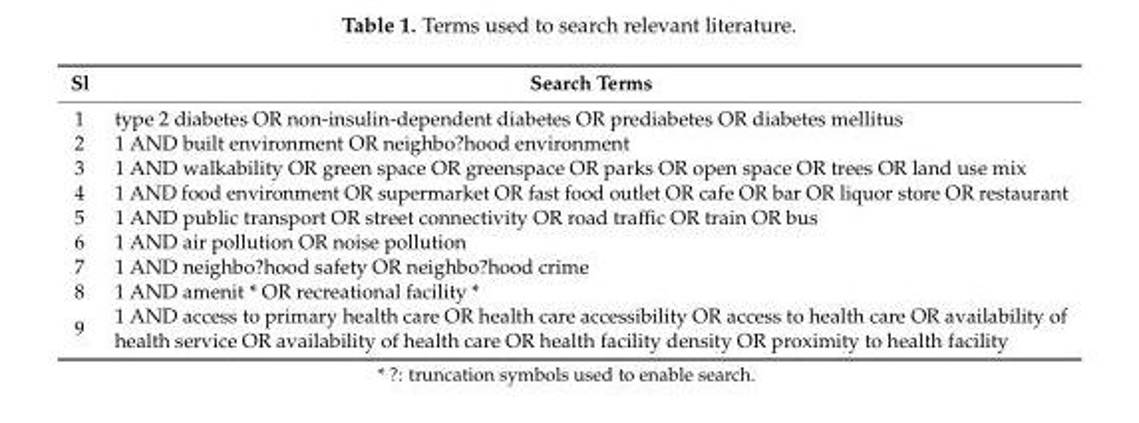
<table><thead><tr><td>Sl</td><td>Search Terms</td></tr></thead><tbody><tr><td>1</td><td>type 2 diabetes OR non-insulin-dependent diabetes OR prediabetes OR diabetes mellitus</td></tr><tr><td>2</td><td>1 AND built environment OR neighbo?hood environment</td></tr><tr><td>3</td><td>1 AND walkability OR green space OR greenspace OR parks OR open space OR trees OR land use mix</td></tr><tr><td>4</td><td>1 AND food environment OR supermarket OR fast food outlet OR cafe OR bar OR liquor store OR restaurant</td></tr><tr><td>5</td><td>1 AND public transport OR street connectivity OR road traffic OR train OR bus</td></tr><tr><td>6</td><td>1 AND air pollution OR noise pollution</td></tr><tr><td>7</td><td>1 AND neighbo?hood safety OR neighbo?hood crime</td></tr><tr><td>8</td><td>1 AND amenit * OR recreational facility *</td></tr><tr><td>9</td><td>1 AND access to primary health care OR health care accessibility OR access to health care OR availability of health service OR availability of health care OR health facility density OR proximity to health facility</td></tr></tbody></table>